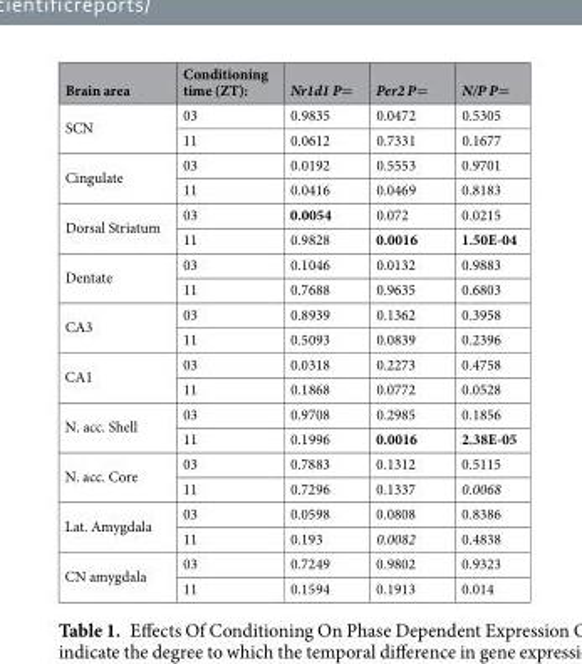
<table><thead><tr><td>Brain area</td><td>Conditioning time (ZT):</td><td>Nr1d1 P=</td><td>Per2 P=</td><td>N/P P=</td></tr></thead><tbody><tr><td rowspan="2">SCN</td><td>03</td><td>0.9835</td><td>0.0472</td><td>0.5305</td></tr><tr><td>11</td><td>0.0612</td><td>0.7331</td><td>0.1677</td></tr><tr><td rowspan="2">Cingulate</td><td>03</td><td>0.0192</td><td>0.5553</td><td>0.9701</td></tr><tr><td>11</td><td>0.0416</td><td>0.0469</td><td>0.8183</td></tr><tr><td rowspan="2">Dorsal Striatum</td><td>03</td><td>0.0054</td><td>0.072</td><td>0.0215</td></tr><tr><td>11</td><td>0.9828</td><td>0.0016</td><td>1.50E-04</td></tr><tr><td rowspan="2">Dentate</td><td>03</td><td>0.1046</td><td>0.0132</td><td>0.9883</td></tr><tr><td>11</td><td>0.7688</td><td>0.9635</td><td>0.6803</td></tr><tr><td rowspan="2">CA3</td><td>03</td><td>0.8939</td><td>0.1362</td><td>0.3958</td></tr><tr><td>11</td><td>0.5093</td><td>0.0839</td><td>0.2396</td></tr><tr><td rowspan="2">CA1</td><td>03</td><td>0.0318</td><td>0.2273</td><td>0.4758</td></tr><tr><td>11</td><td>0.1868</td><td>0.0772</td><td>0.0528</td></tr><tr><td rowspan="2">N. acc. Shell</td><td>03</td><td>0.9708</td><td>0.2985</td><td>0.1856</td></tr><tr><td>11</td><td>0.1996</td><td>0.0016</td><td>2.38E-05</td></tr><tr><td rowspan="2">N. acc. Core</td><td>03</td><td>0.7883</td><td>0.1312</td><td>0.5115</td></tr><tr><td>11</td><td>0.7296</td><td>0.1337</td><td>0.0068</td></tr><tr><td rowspan="2">Lat. Amygdala</td><td>03</td><td>0.0598</td><td>0.0808</td><td>0.8386</td></tr><tr><td>11</td><td>0.193</td><td>0.0082</td><td>0.4838</td></tr><tr><td rowspan="2">CN amygdala</td><td>03</td><td>0.7249</td><td>0.9802</td><td>0.9323</td></tr><tr><td>11</td><td>0.1594</td><td>0.1913</td><td>0.014</td></tr></tbody></table>